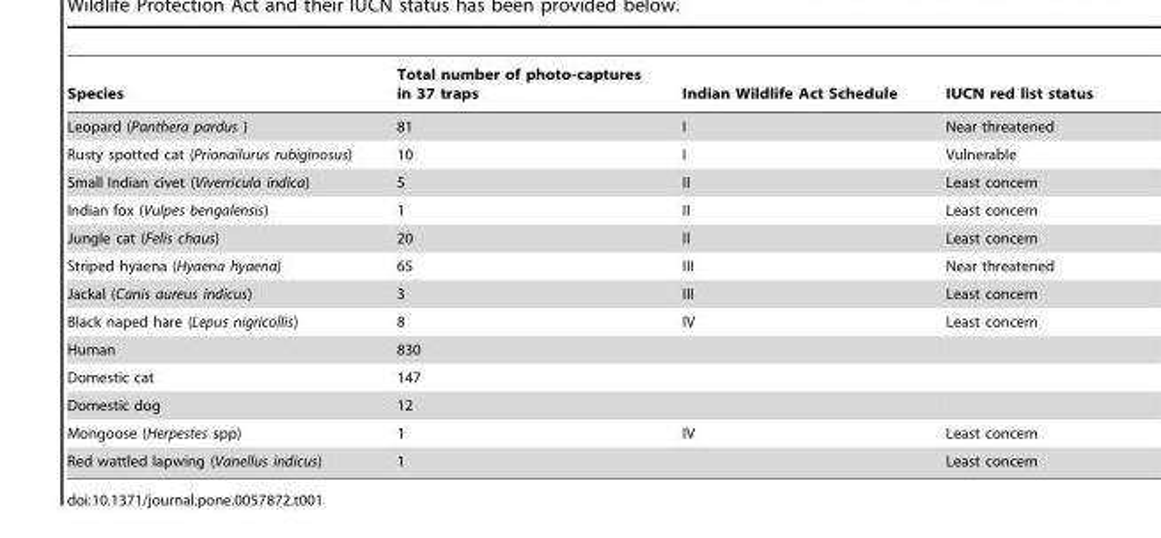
<table><thead><tr><td>Species</td><td>Total number of photo-captures in 37 traps</td><td>Indian Wildlife Act Schedule</td><td>IUCN red list status</td></tr></thead><tbody><tr><td>Leopard (Panthera pardus )</td><td>81</td><td>I</td><td>Near threatened</td></tr><tr><td>Rusty spotted cat (Prionailurus rubiginosus)</td><td>10</td><td>I</td><td>Vulnerable</td></tr><tr><td>Small Indian civet (Viverricula indica)</td><td>5</td><td>II</td><td>Least concern</td></tr><tr><td>Indian fox (Vulpes bengalensis)</td><td>1</td><td>II</td><td>Least concern</td></tr><tr><td>Jungle cat (Felis chaus)</td><td>20</td><td>II</td><td>Least concern</td></tr><tr><td>Striped hyaena (Hyaena hyaena)</td><td>65</td><td>III</td><td>Near threatened</td></tr><tr><td>Jackal (Canis aureus indicus)</td><td>3</td><td>III</td><td>Least concern</td></tr><tr><td>Black naped hare (Lepus nigricollis)</td><td>8</td><td>IV</td><td>Least concern</td></tr><tr><td>Human</td><td>830</td><td></td><td></td></tr><tr><td>Domestic cat</td><td>147</td><td></td><td></td></tr><tr><td>Domestic dog</td><td>12</td><td></td><td></td></tr><tr><td>Mongoose (Herpestes spp)</td><td>1</td><td>IV</td><td>Least concern</td></tr><tr><td>Red wattled lapwing (Vanellus indicus)</td><td>1</td><td></td><td>Least concern</td></tr></tbody></table>